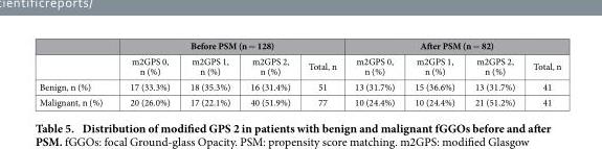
<table><thead><tr><td rowspan="2"></td><td colspan="4">Before PSM (n = 128)</td><td colspan="4">After PSM (n = 82)</td></tr><tr><td>m2GPS 0, n (%)</td><td>m2GPS 1, n (%)</td><td>m2GPS 2, n (%)</td><td>Total, n</td><td>m2GPS 0, n (%)</td><td>m2GPS 1, n (%)</td><td>m2GPS 2, n (%)</td><td>Total, n</td></tr></thead><tbody><tr><td>Benign, n (%)</td><td>17 (33.3%)</td><td>18 (35.3%)</td><td>16 (31.4%)</td><td>51</td><td>13 (31.7%)</td><td>15 (36.6%)</td><td>13 (31.7%)</td><td>41</td></tr><tr><td>Malignant, n (%)</td><td>20 (26.0%)</td><td>17 (22.1%)</td><td>40 (51.9%)</td><td>77</td><td>10 (24.4%)</td><td>10 (24.4%)</td><td>21 (51.2%)</td><td>41</td></tr></tbody></table>